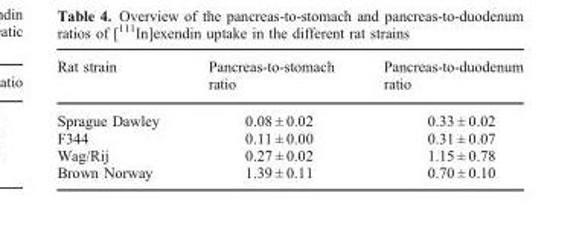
<table><thead><tr><td>Rat strain</td><td>Pancreas-to-stomach ratio</td><td>Pancreas-to-duodenum ratio</td></tr></thead><tbody><tr><td>Sprague Dawley</td><td>0.08 ± 0.02</td><td>0.33 ± 0.02</td></tr><tr><td>F344</td><td>0.11 ± 0.00</td><td>0.31 ± 0.07</td></tr><tr><td>Wag/Rij</td><td>0.27 ± 0.02</td><td>1.15 ± 0.78</td></tr><tr><td>Brown Norway</td><td>1.39 ± 0.11</td><td>0.70 ± 0.10</td></tr></tbody></table>